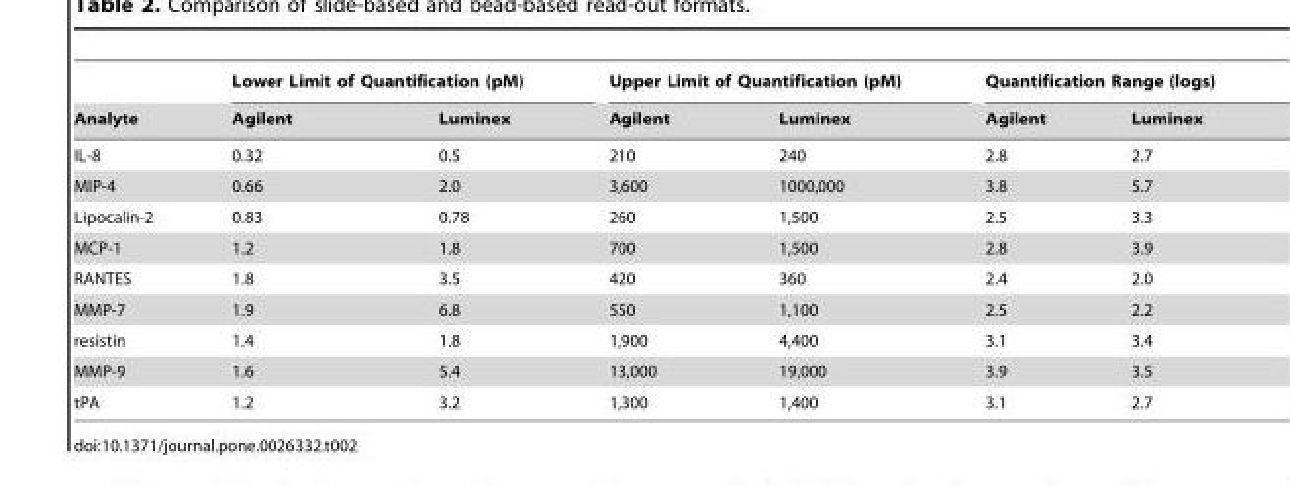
<table><thead><tr><td rowspan="2">Analyte</td><td colspan="2">Lower Limit of Quantification (pM)</td><td colspan="2">Upper Limit of Quantification (pM)</td><td colspan="2">Quantification Range (logs)</td></tr><tr><td>Agilent</td><td>Luminex</td><td>Agilent</td><td>Luminex</td><td>Agilent</td><td>Luminex</td></tr></thead><tbody><tr><td>IL-8</td><td>0.32</td><td>0.5</td><td>210</td><td>240</td><td>2.8</td><td>2.7</td></tr><tr><td>MIP-4</td><td>0.66</td><td>2.0</td><td>3,600</td><td>1000,000</td><td>3.8</td><td>5.7</td></tr><tr><td>Lipocalin-2</td><td>0.83</td><td>0.78</td><td>260</td><td>1,500</td><td>2.5</td><td>3.3</td></tr><tr><td>MCP-1</td><td>1.2</td><td>1.8</td><td>700</td><td>1,500</td><td>2.8</td><td>3.9</td></tr><tr><td>RANTES</td><td>1.8</td><td>3.5</td><td>420</td><td>360</td><td>2.4</td><td>2.0</td></tr><tr><td>MMP-7</td><td>1.9</td><td>6.8</td><td>550</td><td>1,100</td><td>2.5</td><td>2.2</td></tr><tr><td>resistin</td><td>1.4</td><td>1.8</td><td>1,900</td><td>4,400</td><td>3.1</td><td>3.4</td></tr><tr><td>MMP-9</td><td>1.6</td><td>5.4</td><td>13,000</td><td>19,000</td><td>3.9</td><td>3.5</td></tr><tr><td>tPA</td><td>1.2</td><td>3.2</td><td>1,300</td><td>1,400</td><td>3.1</td><td>2.7</td></tr></tbody></table>